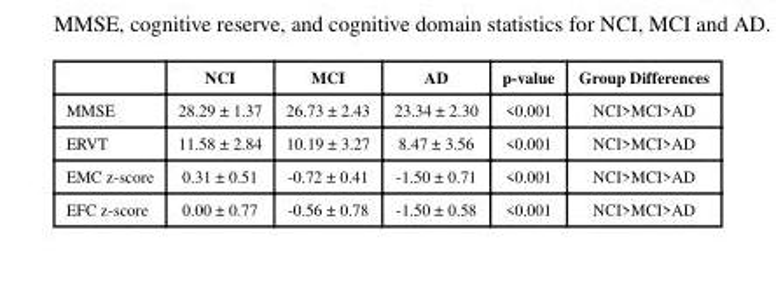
<table><thead><tr><td></td><td>NCI</td><td>MCI</td><td>AD</td><td>p-value</td><td>Group Differences</td></tr></thead><tbody><tr><td>MMSE</td><td>28.29 ± 1.37</td><td>26.73 ± 2.43</td><td>23.34 ± 2.30</td><td>&lt;0.001</td><td>NCI&gt;MCI&gt;AD</td></tr><tr><td>ERVT</td><td>11.58 ± 2.84</td><td>10.19 ± 3.27</td><td>8.47 ± 3.56</td><td>&lt;0.001</td><td>NCI&gt;MCI&gt;AD</td></tr><tr><td>EMC z-score</td><td>0.31 ± 0.51</td><td>-0.72 ± 0.41</td><td>-1.50 ± 0.71</td><td>&lt;0.001</td><td>NCI&gt;MCI&gt;AD</td></tr><tr><td>EFC z-score</td><td>0.00 ± 0.77</td><td>-0.56 ± 0.78</td><td>-1.50 ± 0.58</td><td>&lt;0.001</td><td>NCI&gt;MCI&gt;AD</td></tr></tbody></table>